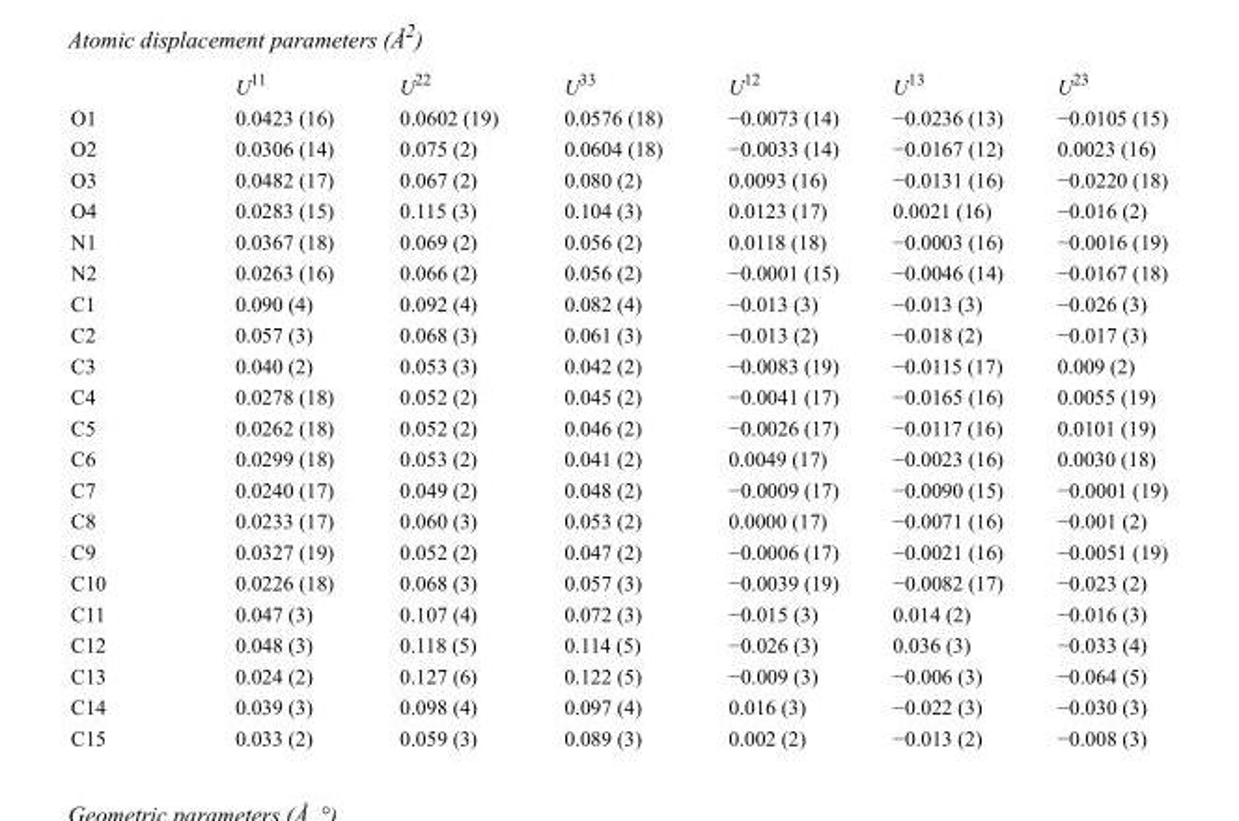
<table><thead><tr><td></td><td>U<sup>11</sup></td><td>U<sup>22</sup></td><td>U<sup>33</sup></td><td>U<sup>12</sup></td><td>U<sup>13</sup></td><td>U<sup>23</sup></td></tr></thead><tbody><tr><td>O1</td><td>0.0423 (16)</td><td>0.0602 (19)</td><td>0.0576 (18)</td><td>−0.0073 (14)</td><td>−0.0236 (13)</td><td>−0.0105 (15)</td></tr><tr><td>O2</td><td>0.0306 (14)</td><td>0.075 (2)</td><td>0.0604 (18)</td><td>−0.0033 (14)</td><td>−0.0167 (12)</td><td>0.0023 (16)</td></tr><tr><td>O3</td><td>0.0482 (17)</td><td>0.067 (2)</td><td>0.080 (2)</td><td>0.0093 (16)</td><td>−0.0131 (16)</td><td>−0.0220 (18)</td></tr><tr><td>O4</td><td>0.0283 (15)</td><td>0.115 (3)</td><td>0.104 (3)</td><td>0.0123 (17)</td><td>0.0021 (16)</td><td>−0.016 (2)</td></tr><tr><td>N1</td><td>0.0367 (18)</td><td>0.069 (2)</td><td>0.056 (2)</td><td>0.0118 (18)</td><td>−0.0003 (16)</td><td>−0.0016 (19)</td></tr><tr><td>N2</td><td>0.0263 (16)</td><td>0.066 (2)</td><td>0.056 (2)</td><td>−0.0001 (15)</td><td>−0.0046 (14)</td><td>−0.0167 (18)</td></tr><tr><td>C1</td><td>0.090 (4)</td><td>0.092 (4)</td><td>0.082 (4)</td><td>−0.013 (3)</td><td>−0.013 (3)</td><td>−0.026 (3)</td></tr><tr><td>C2</td><td>0.057 (3)</td><td>0.068 (3)</td><td>0.061 (3)</td><td>−0.013 (2)</td><td>−0.018 (2)</td><td>−0.017 (3)</td></tr><tr><td>C3</td><td>0.040 (2)</td><td>0.053 (3)</td><td>0.042 (2)</td><td>−0.0083 (19)</td><td>−0.0115 (17)</td><td>0.009 (2)</td></tr><tr><td>C4</td><td>0.0278 (18)</td><td>0.052 (2)</td><td>0.045 (2)</td><td>−0.0041 (17)</td><td>−0.0165 (16)</td><td>0.0055 (19)</td></tr><tr><td>C5</td><td>0.0262 (18)</td><td>0.052 (2)</td><td>0.046 (2)</td><td>−0.0026 (17)</td><td>−0.0117 (16)</td><td>0.0101 (19)</td></tr><tr><td>C6</td><td>0.0299 (18)</td><td>0.053 (2)</td><td>0.041 (2)</td><td>0.0049 (17)</td><td>−0.0023 (16)</td><td>0.0030 (18)</td></tr><tr><td>C7</td><td>0.0240 (17)</td><td>0.049 (2)</td><td>0.048 (2)</td><td>−0.0009 (17)</td><td>−0.0090 (15)</td><td>−0.0001 (19)</td></tr><tr><td>C8</td><td>0.0233 (17)</td><td>0.060 (3)</td><td>0.053 (2)</td><td>0.0000 (17)</td><td>−0.0071 (16)</td><td>−0.001 (2)</td></tr><tr><td>C9</td><td>0.0327 (19)</td><td>0.052 (2)</td><td>0.047 (2)</td><td>−0.0006 (17)</td><td>−0.0021 (16)</td><td>−0.0051 (19)</td></tr><tr><td>C10</td><td>0.0226 (18)</td><td>0.068 (3)</td><td>0.057 (3)</td><td>−0.0039 (19)</td><td>−0.0082 (17)</td><td>−0.023 (2)</td></tr><tr><td>C11</td><td>0.047 (3)</td><td>0.107 (4)</td><td>0.072 (3)</td><td>−0.015 (3)</td><td>0.014 (2)</td><td>−0.016 (3)</td></tr><tr><td>C12</td><td>0.048 (3)</td><td>0.118 (5)</td><td>0.114 (5)</td><td>−0.026 (3)</td><td>0.036 (3)</td><td>−0.033 (4)</td></tr><tr><td>C13</td><td>0.024 (2)</td><td>0.127 (6)</td><td>0.122 (5)</td><td>−0.009 (3)</td><td>−0.006 (3)</td><td>−0.064 (5)</td></tr><tr><td>C14</td><td>0.039 (3)</td><td>0.098 (4)</td><td>0.097 (4)</td><td>0.016 (3)</td><td>−0.022 (3)</td><td>−0.030 (3)</td></tr><tr><td>C15</td><td>0.033 (2)</td><td>0.059 (3)</td><td>0.089 (3)</td><td>0.002 (2)</td><td>−0.013 (2)</td><td>−0.008 (3)</td></tr></tbody></table>